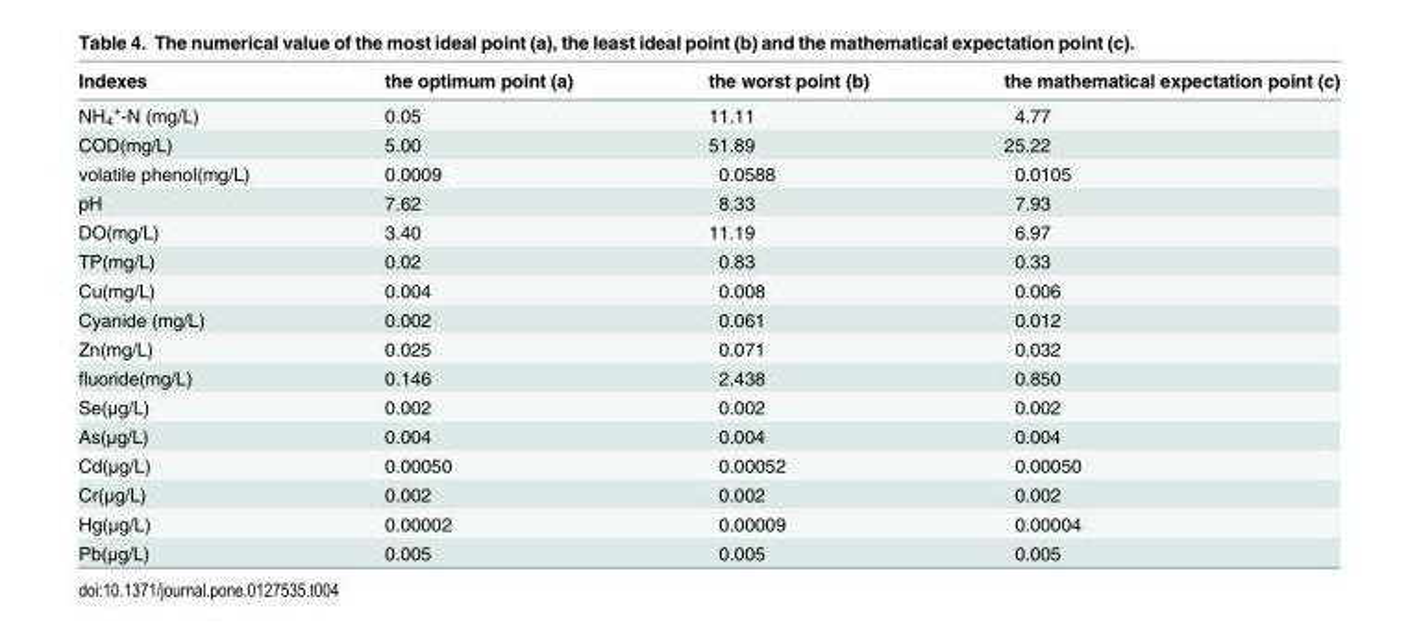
<table><thead><tr><td>Indexes</td><td>the optimum point (a)</td><td>the worst point (b)</td><td>the mathematical expectation point (c)</td></tr></thead><tbody><tr><td>NH<sub>4</sub> <sup>+</sup>-N (mg/L)</td><td>0.05</td><td>11.11</td><td>4.77</td></tr><tr><td>COD(mg/L)</td><td>5.00</td><td>51.89</td><td>25.22</td></tr><tr><td>volatile phenol(mg/L)</td><td>0.0009</td><td>0.0588</td><td>0.0105</td></tr><tr><td>pH</td><td>7.62</td><td>8.33</td><td>7.93</td></tr><tr><td>DO(mg/L)</td><td>3.40</td><td>11.19</td><td>6.97</td></tr><tr><td>TP(mg/L)</td><td>0.02</td><td>0.83</td><td>0.33</td></tr><tr><td>Cu(mg/L)</td><td>0.004</td><td>0.008</td><td>0.006</td></tr><tr><td>Cyanide (mg/L)</td><td>0.002</td><td>0.061</td><td>0.012</td></tr><tr><td>Zn(mg/L)</td><td>0.025</td><td>0.071</td><td>0.032</td></tr><tr><td>fluoride(mg/L)</td><td>0.146</td><td>2.438</td><td>0.850</td></tr><tr><td>Se(μg/L)</td><td>0.002</td><td>0.002</td><td>0.002</td></tr><tr><td>As(μg/L)</td><td>0.004</td><td>0.004</td><td>0.004</td></tr><tr><td>Cd(μg/L)</td><td>0.00050</td><td>0.00052</td><td>0.00050</td></tr><tr><td>Cr(μg/L)</td><td>0.002</td><td>0.002</td><td>0.002</td></tr><tr><td>Hg(μg/L)</td><td>0.00002</td><td>0.00009</td><td>0.00004</td></tr><tr><td>Pb(μg/L)</td><td>0.005</td><td>0.005</td><td>0.005</td></tr></tbody></table>